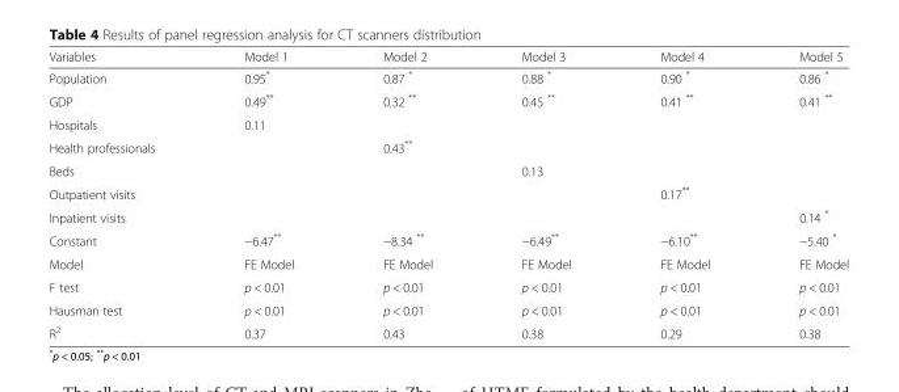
<table><thead><tr><td>Variables</td><td>Model 1</td><td>Model 2</td><td>Model 3</td><td>Model 4</td><td>Model 5</td></tr></thead><tbody><tr><td>Population</td><td>0.95*</td><td>0.87 *</td><td>0.88 *</td><td>0.90 *</td><td>0.86 *</td></tr><tr><td>GDP</td><td>0.49**</td><td>0.32 **</td><td>0.45 **</td><td>0.41 **</td><td>0.41 **</td></tr><tr><td>Hospitals</td><td>0.11</td><td></td><td></td><td></td><td></td></tr><tr><td>Health professionals</td><td></td><td>0.43**</td><td></td><td></td><td></td></tr><tr><td>Beds</td><td></td><td></td><td>0.13</td><td></td><td></td></tr><tr><td>Outpatient visits</td><td></td><td></td><td></td><td>0.17**</td><td></td></tr><tr><td>Inpatient visits</td><td></td><td></td><td></td><td></td><td>0.14 *</td></tr><tr><td>Constant</td><td>−6.47**</td><td>−8.34 **</td><td>−6.49**</td><td>−6.10**</td><td>−5.40 *</td></tr><tr><td>Model</td><td>FE Model</td><td>FE Model</td><td>FE Model</td><td>FE Model</td><td>FE Model</td></tr><tr><td>F test</td><td>p &lt; 0.01</td><td>p &lt; 0.01</td><td>p &lt; 0.01</td><td>p &lt; 0.01</td><td>p &lt; 0.01</td></tr><tr><td>Hausman test</td><td>p &lt; 0.01</td><td>p &lt; 0.01</td><td>p &lt; 0.01</td><td>p &lt; 0.01</td><td>p &lt; 0.01</td></tr><tr><td>R<sup>2</sup></td><td>0.37</td><td>0.43</td><td>0.38</td><td>0.29</td><td>0.38</td></tr></tbody></table>